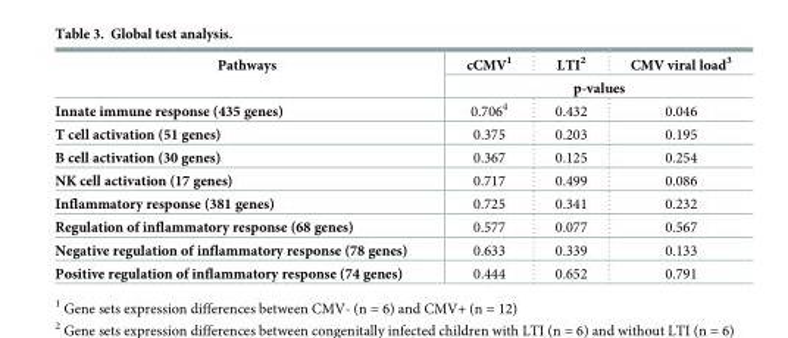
<table><thead><tr><td rowspan="2">Pathways</td><td>cCMV<sup>1</sup></td><td>LTI<sup>2</sup></td><td>CMV viral load<sup>3</sup></td></tr><tr><td colspan="3">p-values</td></tr></thead><tbody><tr><td>Innate immune response (435 genes)</td><td>0.706<sup>4</sup></td><td>0.432</td><td>0.046</td></tr><tr><td>T cell activation (51 genes)</td><td>0.375</td><td>0.203</td><td>0.195</td></tr><tr><td>B cell activation (30 genes)</td><td>0.367</td><td>0.125</td><td>0.254</td></tr><tr><td>NK cell activation (17 genes)</td><td>0.717</td><td>0.499</td><td>0.086</td></tr><tr><td>Inflammatory response (381 genes)</td><td>0.725</td><td>0.341</td><td>0.232</td></tr><tr><td>Regulation of inflammatory response (68 genes)</td><td>0.577</td><td>0.077</td><td>0.567</td></tr><tr><td>Negative regulation of inflammatory response (78 genes)</td><td>0.633</td><td>0.339</td><td>0.133</td></tr><tr><td>Positive regulation of inflammatory response (74 genes)</td><td>0.444</td><td>0.652</td><td>0.791</td></tr></tbody></table>